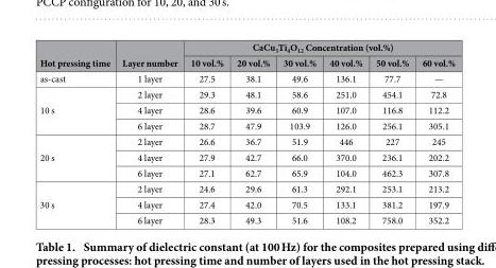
<table><thead><tr><td rowspan="2">Hot pressing time</td><td rowspan="2">Layer number</td><td colspan="6">CaCu<sub>3</sub>Ti<sub>4</sub>O<sub>12</sub> Concentration (vol.%)</td></tr><tr><td>10 vol.%</td><td>20 vol.%</td><td>30 vol.%</td><td>40 vol.%</td><td>50 vol.%</td><td>60 vol.%</td></tr></thead><tbody><tr><td>as-cast</td><td>1 layer</td><td>27.5</td><td>38.1</td><td>49.6</td><td>136.1</td><td>77.7</td><td>—</td></tr><tr><td rowspan="3">10 s</td><td>2 layer</td><td>29.3</td><td>48.1</td><td>58.6</td><td>251.0</td><td>454.1</td><td>72.8</td></tr><tr><td>4 layer</td><td>28.6</td><td>39.6</td><td>60.9</td><td>107.0</td><td>116.8</td><td>112.2</td></tr><tr><td>6 layer</td><td>28.7</td><td>47.9</td><td>103.9</td><td>126.0</td><td>256.1</td><td>305.1</td></tr><tr><td rowspan="3">20 s</td><td>2 layer</td><td>26.6</td><td>36.7</td><td>51.9</td><td>446</td><td>227</td><td>245</td></tr><tr><td>4 layer</td><td>27.9</td><td>42.7</td><td>66.0</td><td>370.0</td><td>236.1</td><td>202.2</td></tr><tr><td>6 layer</td><td>27.1</td><td>62.7</td><td>65.9</td><td>104.0</td><td>462.3</td><td>307.8</td></tr><tr><td rowspan="3">30 s</td><td>2 layer</td><td>24.6</td><td>29.6</td><td>61.3</td><td>292.1</td><td>253.1</td><td>213.2</td></tr><tr><td>4 layer</td><td>27.4</td><td>42.0</td><td>70.5</td><td>133.1</td><td>381.2</td><td>197.9</td></tr><tr><td>6 layer</td><td>28.3</td><td>49.3</td><td>51.6</td><td>108.2</td><td>758.0</td><td>352.2</td></tr></tbody></table>